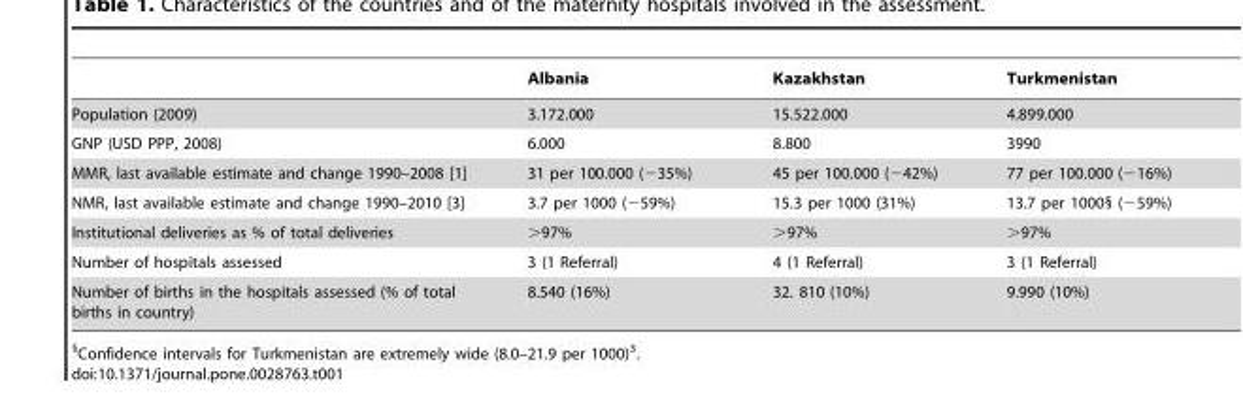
<table><thead><tr><td></td><td>Albania</td><td>Kazakhstan</td><td>Turkmenistan</td></tr></thead><tbody><tr><td>Population (2009)</td><td>3.172.000</td><td>15.522.000</td><td>4.899.000</td></tr><tr><td>GNP (USD PPP, 2008)</td><td>6.000</td><td>8.800</td><td>3990</td></tr><tr><td>MMR, last available estimate and change 1990–2008 [1]</td><td>31 per 100.000 (−35%)</td><td>45 per 100.000 (−42%)</td><td>77 per 100.000 (−16%)</td></tr><tr><td>NMR, last available estimate and change 1990–2010 [3]</td><td>3.7 per 1000 (−59%)</td><td>15.3 per 1000 (31%)</td><td>13.7 per 1000§ (−59%)</td></tr><tr><td>Institutional deliveries as % of total deliveries</td><td>&gt;97%</td><td>&gt;97%</td><td>&gt;97%</td></tr><tr><td>Number of hospitals assessed</td><td>3 (1 Referral)</td><td>4 (1 Referral)</td><td>3 (1 Referral)</td></tr><tr><td>Number of births in the hospitals assessed (% of total births in country)</td><td>8.540 (16%)</td><td>32. 810 (10%)</td><td>9.990 (10%)</td></tr></tbody></table>